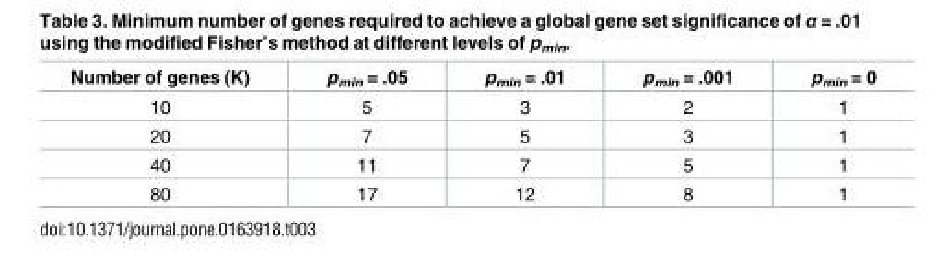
<table><thead><tr><td>Number of genes (K)</td><td>p<sub>min</sub> = .05</td><td>p<sub>min</sub> = .01</td><td>p<sub>min</sub> = .001</td><td>p<sub>min</sub> = 0</td></tr></thead><tbody><tr><td>10</td><td>5</td><td>3</td><td>2</td><td>1</td></tr><tr><td>20</td><td>7</td><td>5</td><td>3</td><td>1</td></tr><tr><td>40</td><td>11</td><td>7</td><td>5</td><td>1</td></tr><tr><td>80</td><td>17</td><td>12</td><td>8</td><td>1</td></tr></tbody></table>